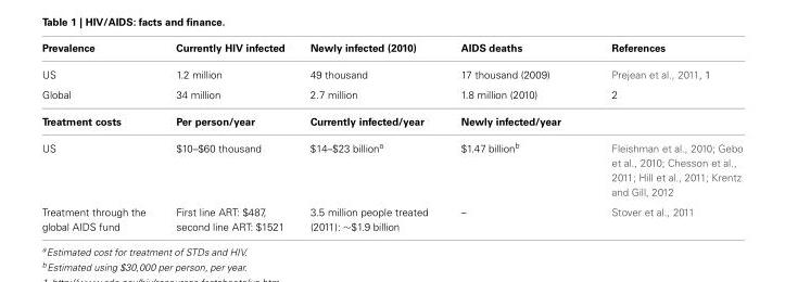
<table><thead><tr><td>Prevalence</td><td>Currently HIV infected</td><td>Newly infected (2010)</td><td>AIDS deaths</td><td>References</td></tr></thead><tbody><tr><td>US</td><td>1.2 million</td><td>49 thousand</td><td>17 thousand (2009)</td><td>Prejean et al., 2011, 1</td></tr><tr><td>Global</td><td>34 million</td><td>2.7 million</td><td>1.8 million (2010)</td><td>2</td></tr><tr><td>Treatment costs</td><td>Per person/year</td><td>Currently infected/year</td><td>Newly infected/year</td><td></td></tr><tr><td>US</td><td>$10–$60 thousand</td><td>$14–$23 billion<sup>a</sup></td><td>$1.47 billion<sup>b</sup></td><td>Fleishman et al., 2010; Gebo et al., 2010; Chesson et al., 2011; Hill et al., 2011; Krentz and Gill, 2012</td></tr><tr><td>Treatment through the global AIDS fund</td><td>First line ART: $487, second line ART: $1521</td><td>3.5 million people treated (2011): ∼$1.9 billion</td><td>–</td><td>Stover et al., 2011</td></tr></tbody></table>